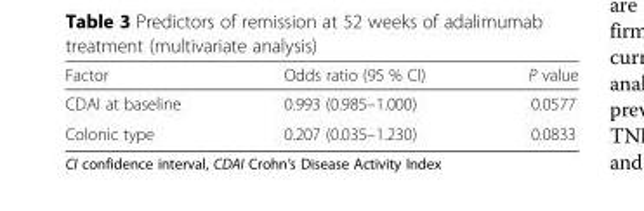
<table><thead><tr><td>Factor</td><td>Odds ratio (95 % CI)</td><td>P value</td></tr></thead><tbody><tr><td>CDAI at baseline</td><td>0.993 (0.985–1.000)</td><td>0.0577</td></tr><tr><td>Colonic type</td><td>0.207 (0.035–1.230)</td><td>0.0833</td></tr></tbody></table>